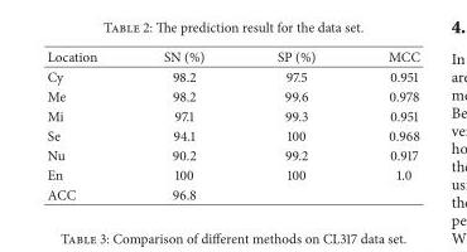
<table><thead><tr><td>Location</td><td>SN (%)</td><td>SP (%)</td><td>MCC</td></tr></thead><tbody><tr><td>Cy</td><td>98.2</td><td>97.5</td><td>0.951</td></tr><tr><td>Me</td><td>98.2</td><td>99.6</td><td>0.978</td></tr><tr><td>Mi</td><td>97.1</td><td>99.3</td><td>0.951</td></tr><tr><td>Se</td><td>94.1</td><td>100</td><td>0.968</td></tr><tr><td>Nu</td><td>90.2</td><td>99.2</td><td>0.917</td></tr><tr><td>En</td><td>100</td><td>100</td><td>1.0</td></tr><tr><td>ACC</td><td>96.8</td><td></td><td></td></tr></tbody></table>